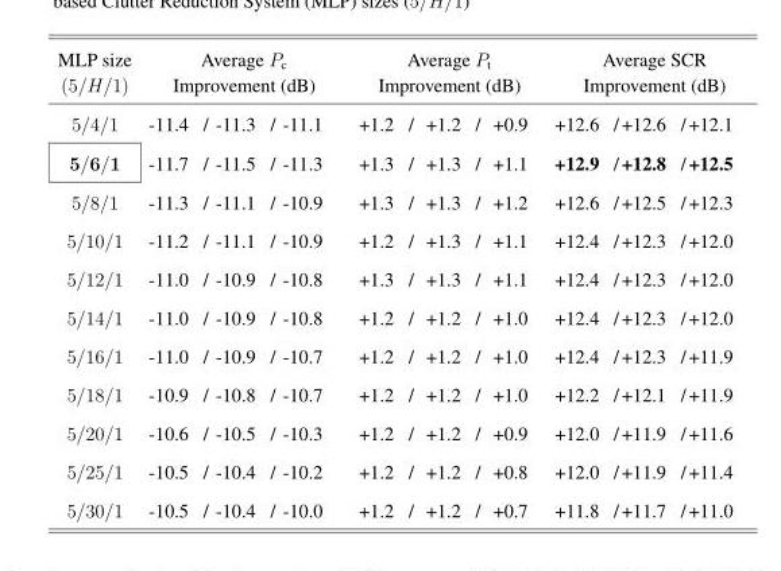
<table><thead><tr><td>MLP size (5/H/1)</td><td>Average P<sub>c</sub> Improvement (dB)</td><td>Average P<sub>t</sub> Improvement (dB)</td><td>Average SCR Improvement (dB)</td></tr></thead><tbody><tr><td>5/4/1</td><td>-11.4 / -11.3 / -11.1</td><td>+1.2 / +1.2 / +0.9</td><td>+12.6 /+12.6 /+12.1</td></tr><tr><td>5/6/1</td><td>-11.7 / -11.5 / -11.3</td><td>+1.3 / +1.3 / +1.1</td><td>+12.9 /+12.8 /+12.5</td></tr><tr><td>5/8/1</td><td>-11.3 / -11.1 / -10.9</td><td>+1.3 / +1.3 / +1.2</td><td>+12.6 /+12.5 /+12.3</td></tr><tr><td>5/10/1</td><td>-11.2 / -11.1 / -10.9</td><td>+1.2 / +1.3 / +1.1</td><td>+12.4 /+12.3 /+12.0</td></tr><tr><td>5/12/1</td><td>-11.0 / -10.9 / -10.8</td><td>+1.3 / +1.3 / +1.1</td><td>+12.4 /+12.3 /+12.0</td></tr><tr><td>5/14/1</td><td>-11.0 / -10.9 / -10.8</td><td>+1.2 / +1.2 / +1.0</td><td>+12.4 /+12.3 /+12.0</td></tr><tr><td>5/16/1</td><td>-11.0 / -10.9 / -10.7</td><td>+1.2 / +1.2 / +1.0</td><td>+12.4 /+12.3 /+11.9</td></tr><tr><td>5/18/1</td><td>-10.9 / -10.8 / -10.7</td><td>+1.2 / +1.2 / +1.0</td><td>+12.2 /+12.1 /+11.9</td></tr><tr><td>5/20/1</td><td>-10.6 / -10.5 / -10.3</td><td>+1.2 / +1.2 / +0.9</td><td>+12.0 /+11.9 /+11.6</td></tr><tr><td>5/25/1</td><td>-10.5 / -10.4 / -10.2</td><td>+1.2 / +1.2 / +0.8</td><td>+12.0 /+11.9 /+11.4</td></tr><tr><td>5/30/1</td><td>-10.5 / -10.4 / -10.0</td><td>+1.2 / +1.2 / +0.7</td><td>+11.8 /+11.7 /+11.0</td></tr></tbody></table>